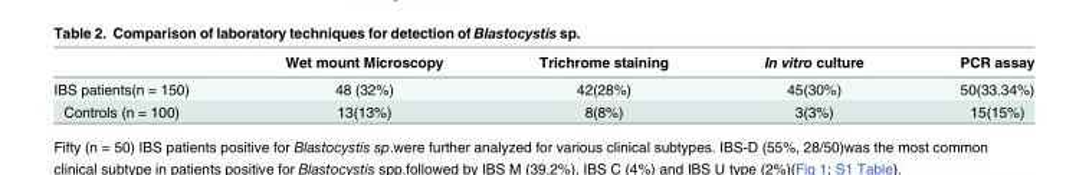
<table><thead><tr><td></td><td>Wet mount Microscopy</td><td>Trichrome staining</td><td>In vitro culture</td><td>PCR assay</td></tr></thead><tbody><tr><td>IBS patients(n = 150)</td><td>48 (32%)</td><td>42(28%)</td><td>45(30%)</td><td>50(33.34%)</td></tr><tr><td>Controls (n = 100)</td><td>13(13%)</td><td>8(8%)</td><td>3(3%)</td><td>15(15%)</td></tr></tbody></table>